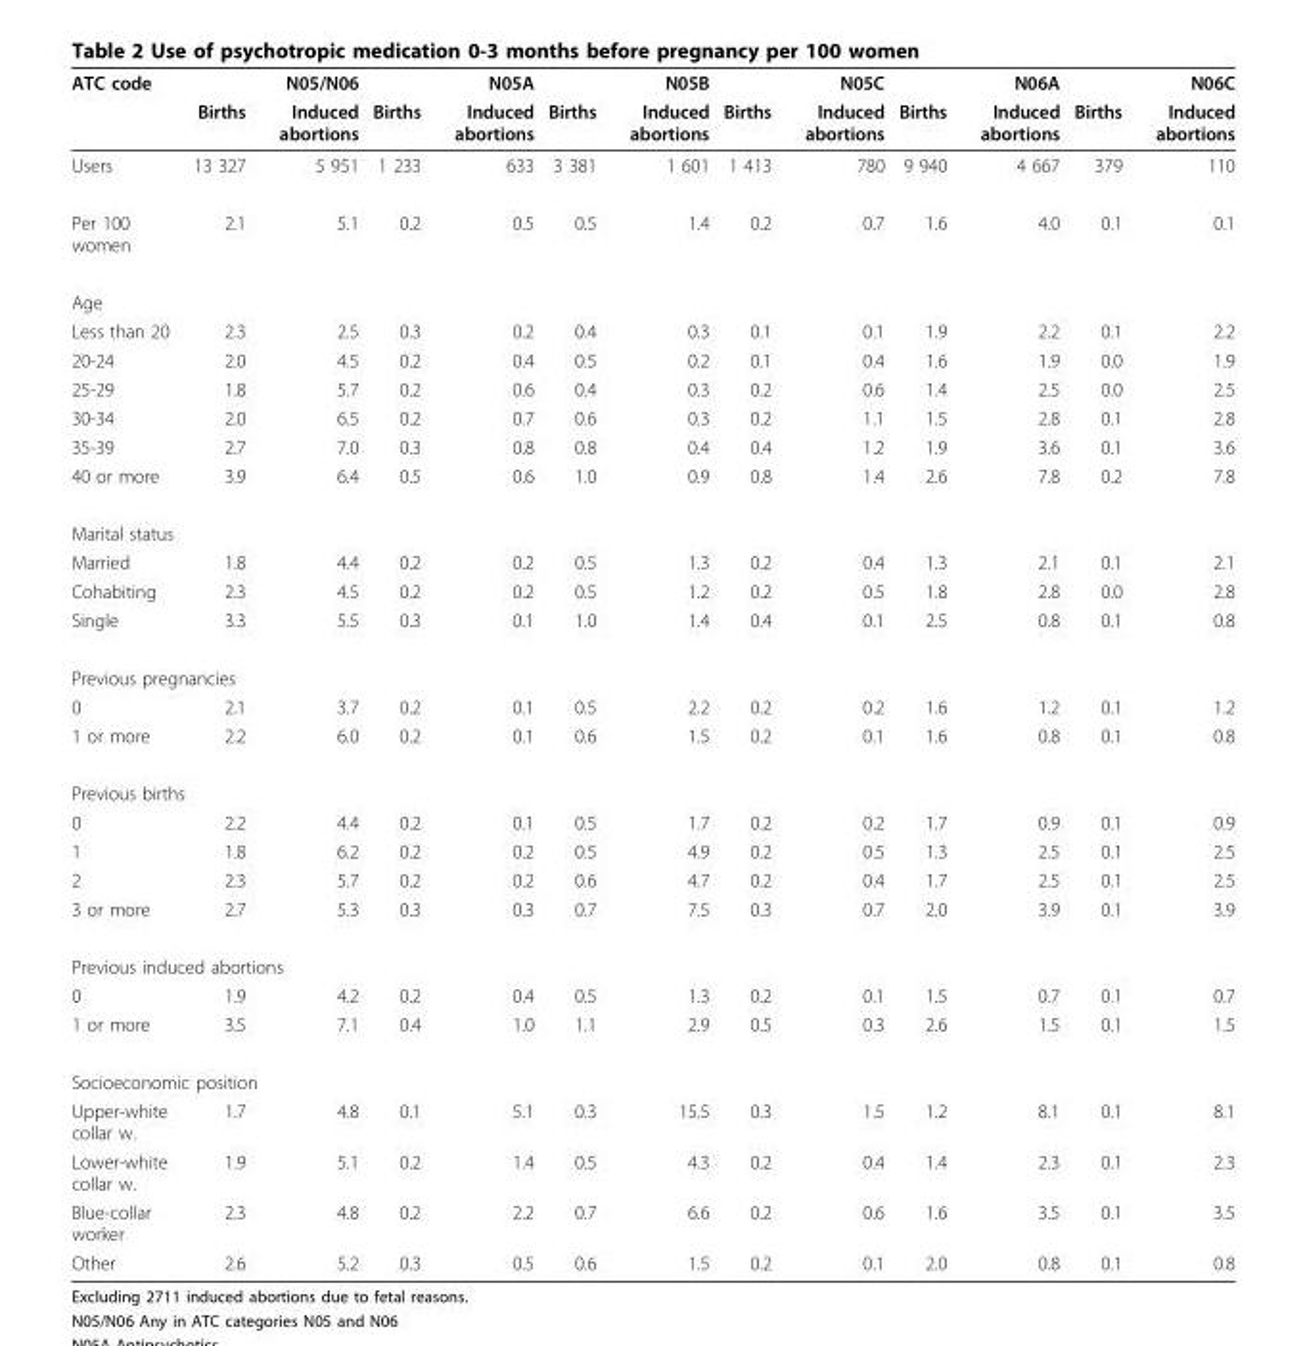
<table><thead><tr><td rowspan="2">ATC code</td><td colspan="2">N05/N06</td><td colspan="2">N05A</td><td colspan="2">N05B</td><td colspan="2">N05C</td><td colspan="2">N06A</td><td colspan="2">N06C</td></tr><tr><td>Births</td><td>Induced abortions</td><td>Births</td><td>Induced abortions</td><td>Births</td><td>Induced abortions</td><td>Births</td><td>Induced abortions</td><td>Births</td><td>Induced abortions</td><td>Births</td><td>Induced abortions</td></tr></thead><tbody><tr><td>Users</td><td>13 327</td><td>5 951</td><td>1 233</td><td>633</td><td>3 381</td><td>1 601</td><td>1 413</td><td>780</td><td>9 940</td><td>4 667</td><td>379</td><td>110</td></tr><tr><td>Per 100 women</td><td>2.1</td><td>5.1</td><td>0.2</td><td>0.5</td><td>0.5</td><td>1.4</td><td>0.2</td><td>0.7</td><td>1.6</td><td>4.0</td><td>0.1</td><td>0.1</td></tr><tr><td colspan="13">Age</td></tr><tr><td>Less than 20</td><td>2.3</td><td>2.5</td><td>0.3</td><td>0.2</td><td>0.4</td><td>0.3</td><td>0.1</td><td>0.1</td><td>1.9</td><td>2.2</td><td>0.1</td><td>2.2</td></tr><tr><td>20-24</td><td>2.0</td><td>4.5</td><td>0.2</td><td>0.4</td><td>0.5</td><td>0.2</td><td>0.1</td><td>0.4</td><td>1.6</td><td>1.9</td><td>0.0</td><td>1.9</td></tr><tr><td>25-29</td><td>1.8</td><td>5.7</td><td>0.2</td><td>0.6</td><td>0.4</td><td>0.3</td><td>0.2</td><td>0.6</td><td>1.4</td><td>2.5</td><td>0.0</td><td>2.5</td></tr><tr><td>30-34</td><td>2.0</td><td>6.5</td><td>0.2</td><td>0.7</td><td>0.6</td><td>0.3</td><td>0.2</td><td>1.1</td><td>1.5</td><td>2.8</td><td>0.1</td><td>2.8</td></tr><tr><td>35-39</td><td>2.7</td><td>7.0</td><td>0.3</td><td>0.8</td><td>0.8</td><td>0.4</td><td>0.4</td><td>1.2</td><td>1.9</td><td>3.6</td><td>0.1</td><td>3.6</td></tr><tr><td>40 or more</td><td>3.9</td><td>6.4</td><td>0.5</td><td>0.6</td><td>1.0</td><td>0.9</td><td>0.8</td><td>1.4</td><td>2.6</td><td>7.8</td><td>0.2</td><td>7.8</td></tr><tr><td colspan="13">Marital status</td></tr><tr><td>Married</td><td>1.8</td><td>4.4</td><td>0.2</td><td>0.2</td><td>0.5</td><td>1.3</td><td>0.2</td><td>0.4</td><td>1.3</td><td>2.1</td><td>0.1</td><td>2.1</td></tr><tr><td>Cohabiting</td><td>2.3</td><td>4.5</td><td>0.2</td><td>0.2</td><td>0.5</td><td>1.2</td><td>0.2</td><td>0.5</td><td>1.8</td><td>2.8</td><td>0.0</td><td>2.8</td></tr><tr><td>Single</td><td>3.3</td><td>5.5</td><td>0.3</td><td>0.1</td><td>1.0</td><td>1.4</td><td>0.4</td><td>0.1</td><td>2.5</td><td>0.8</td><td>0.1</td><td>0.8</td></tr><tr><td colspan="13">Previous pregnancies</td></tr><tr><td>0</td><td>2.1</td><td>3.7</td><td>0.2</td><td>0.1</td><td>0.5</td><td>2.2</td><td>0.2</td><td>0.2</td><td>1.6</td><td>1.2</td><td>0.1</td><td>1.2</td></tr><tr><td>1 or more</td><td>2.2</td><td>6.0</td><td>0.2</td><td>0.1</td><td>0.6</td><td>1.5</td><td>0.2</td><td>0.1</td><td>1.6</td><td>0.8</td><td>0.1</td><td>0.8</td></tr><tr><td colspan="13">Previous births</td></tr><tr><td>0</td><td>2.2</td><td>4.4</td><td>0.2</td><td>0.1</td><td>0.5</td><td>1.7</td><td>0.2</td><td>0.2</td><td>1.7</td><td>0.9</td><td>0.1</td><td>0.9</td></tr><tr><td>1</td><td>1.8</td><td>6.2</td><td>0.2</td><td>0.2</td><td>0.5</td><td>4.9</td><td>0.2</td><td>0.5</td><td>1.3</td><td>2.5</td><td>0.1</td><td>2.5</td></tr><tr><td>2</td><td>2.3</td><td>5.7</td><td>0.2</td><td>0.2</td><td>0.6</td><td>4.7</td><td>0.2</td><td>0.4</td><td>1.7</td><td>2.5</td><td>0.1</td><td>2.5</td></tr><tr><td>3 or more</td><td>2.7</td><td>5.3</td><td>0.3</td><td>0.3</td><td>0.7</td><td>7.5</td><td>0.3</td><td>0.7</td><td>2.0</td><td>3.9</td><td>0.1</td><td>3.9</td></tr><tr><td colspan="13">Previous induced abortions</td></tr><tr><td>0</td><td>1.9</td><td>4.2</td><td>0.2</td><td>0.4</td><td>0.5</td><td>1.3</td><td>0.2</td><td>0.1</td><td>1.5</td><td>0.7</td><td>0.1</td><td>0.7</td></tr><tr><td>1 or more</td><td>3.5</td><td>7.1</td><td>0.4</td><td>1.0</td><td>1.1</td><td>2.9</td><td>0.5</td><td>0.3</td><td>2.6</td><td>1.5</td><td>0.1</td><td>1.5</td></tr><tr><td colspan="13">Socioeconomic position</td></tr><tr><td>Upper-white collar w.</td><td>1.7</td><td>4.8</td><td>0.1</td><td>5.1</td><td>0.3</td><td>15.5</td><td>0.3</td><td>1.5</td><td>1.2</td><td>8.1</td><td>0.1</td><td>8.1</td></tr><tr><td>Lower-white collar w.</td><td>1.9</td><td>5.1</td><td>0.2</td><td>1.4</td><td>0.5</td><td>4.3</td><td>0.2</td><td>0.4</td><td>1.4</td><td>2.3</td><td>0.1</td><td>2.3</td></tr><tr><td>Blue-collar worker</td><td>2.3</td><td>4.8</td><td>0.2</td><td>2.2</td><td>0.7</td><td>6.6</td><td>0.2</td><td>0.6</td><td>1.6</td><td>3.5</td><td>0.1</td><td>3.5</td></tr><tr><td>Other</td><td>2.6</td><td>5.2</td><td>0.3</td><td>0.5</td><td>0.6</td><td>1.5</td><td>0.2</td><td>0.1</td><td>2.0</td><td>0.8</td><td>0.1</td><td>0.8</td></tr></tbody></table>